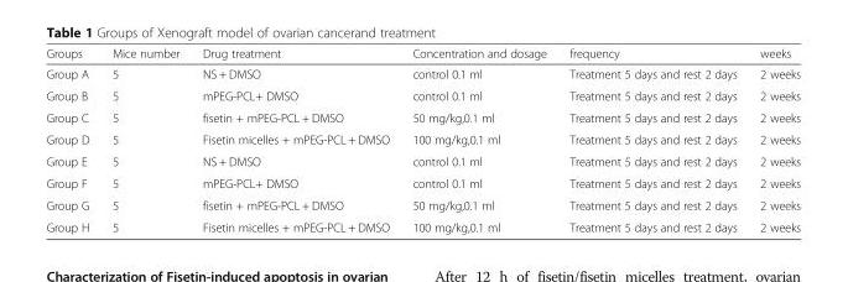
<table><thead><tr><td>Groups</td><td>Mice number</td><td>Drug treatment</td><td>Concentration and dosage</td><td>frequency</td><td>weeks</td></tr></thead><tbody><tr><td>Group A</td><td>5</td><td>NS + DMSO</td><td>control 0.1 ml</td><td>Treatment 5 days and rest 2 days</td><td>2 weeks</td></tr><tr><td>Group B</td><td>5</td><td>mPEG-PCL+ DMSO</td><td>control 0.1 ml</td><td>Treatment 5 days and rest 2 days</td><td>2 weeks</td></tr><tr><td>Group C</td><td>5</td><td>fisetin + mPEG-PCL + DMSO</td><td>50 mg/kg,0.1 ml</td><td>Treatment 5 days and rest 2 days</td><td>2 weeks</td></tr><tr><td>Group D</td><td>5</td><td>Fisetin micelles + mPEG-PCL + DMSO</td><td>100 mg/kg,0.1 ml</td><td>Treatment 5 days and rest 2 days</td><td>2 weeks</td></tr><tr><td>Group E</td><td>5</td><td>NS + DMSO</td><td>control 0.1 ml</td><td>Treatment 5 days and rest 2 days</td><td>2 weeks</td></tr><tr><td>Group F</td><td>5</td><td>mPEG-PCL+ DMSO</td><td>control 0.1 ml</td><td>Treatment 5 days and rest 2 days</td><td>2 weeks</td></tr><tr><td>Group G</td><td>5</td><td>fisetin + mPEG-PCL + DMSO</td><td>50 mg/kg,0.1 ml</td><td>Treatment 5 days and rest 2 days</td><td>2 weeks</td></tr><tr><td>Group H</td><td>5</td><td>Fisetin micelles + mPEG-PCL + DMSO</td><td>100 mg/kg,0.1 ml</td><td>Treatment 5 days and rest 2 days</td><td>2 weeks</td></tr></tbody></table>